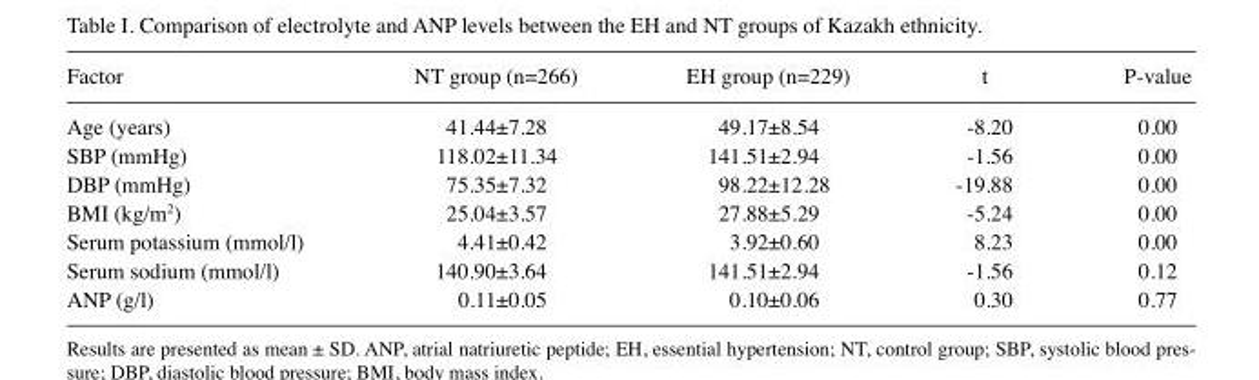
<table><thead><tr><td>Factor</td><td>NT group (n=266)</td><td>EH group (n=229)</td><td>t</td><td>P-value</td></tr></thead><tbody><tr><td>Age (years)</td><td>41.44±7.28</td><td>49.17±8.54</td><td>-8.20</td><td>0.00</td></tr><tr><td>SBP (mmHg)</td><td>118.02±11.34</td><td>141.51±2.94</td><td>-1.56</td><td>0.00</td></tr><tr><td>DBP (mmHg)</td><td>75.35±7.32</td><td>98.22±12.28</td><td>-19.88</td><td>0.00</td></tr><tr><td>BMI (kg/m<sup>2</sup>)</td><td>25.04±3.57</td><td>27.88±5.29</td><td>-5.24</td><td>0.00</td></tr><tr><td>Serum potassium (mmol/l)</td><td>4.41±0.42</td><td>3.92±0.60</td><td>8.23</td><td>0.00</td></tr><tr><td>Serum sodium (mmol/l)</td><td>140.90±3.64</td><td>141.51±2.94</td><td>-1.56</td><td>0.12</td></tr><tr><td>ANP (g/l)</td><td>0.11±0.05</td><td>0.10±0.06</td><td>0.30</td><td>0.77</td></tr></tbody></table>